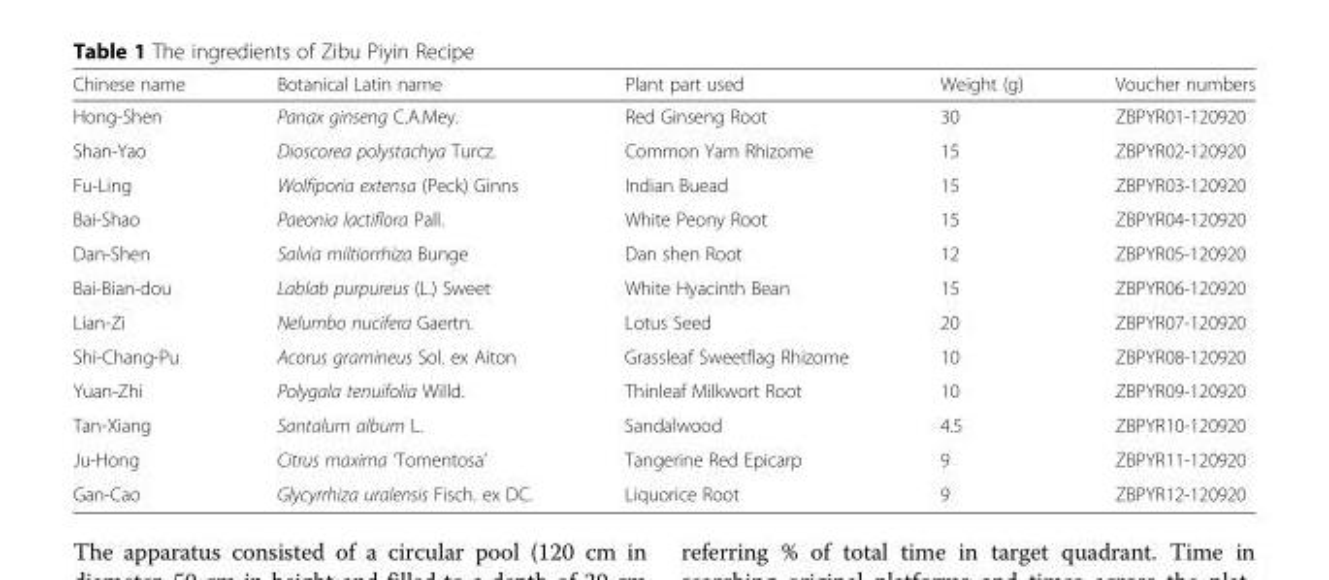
<table><thead><tr><td>Chinese name</td><td>Botanical Latin name</td><td>Plant part used</td><td>Weight (g)</td><td>Voucher numbers</td></tr></thead><tbody><tr><td>Hong-Shen</td><td>Panax ginseng C.A.Mey.</td><td>Red Ginseng Root</td><td>30</td><td>ZBPYR01-120920</td></tr><tr><td>Shan-Yao</td><td>Dioscorea polystachya Turcz.</td><td>Common Yam Rhizome</td><td>15</td><td>ZBPYR02-120920</td></tr><tr><td>Fu-Ling</td><td>Wolfiporia extensa (Peck) Ginns</td><td>Indian Buead</td><td>15</td><td>ZBPYR03-120920</td></tr><tr><td>Bai-Shao</td><td>Paeonia lactiflora Pall.</td><td>White Peony Root</td><td>15</td><td>ZBPYR04-120920</td></tr><tr><td>Dan-Shen</td><td>Salvia miltiorrhiza Bunge</td><td>Dan shen Root</td><td>12</td><td>ZBPYR05-120920</td></tr><tr><td>Bai-Bian-dou</td><td>Lablab purpureus (L.) Sweet</td><td>White Hyacinth Bean</td><td>15</td><td>ZBPYR06-120920</td></tr><tr><td>Lian-Zi</td><td>Nelumbo nucifera Gaertn.</td><td>Lotus Seed</td><td>20</td><td>ZBPYR07-120920</td></tr><tr><td>Shi-Chang-Pu</td><td>Acorus gramineus Sol. ex Aiton</td><td>Grassleaf Sweetflag Rhizome</td><td>10</td><td>ZBPYR08-120920</td></tr><tr><td>Yuan-Zhi</td><td>Polygala tenuifolia Willd.</td><td>Thinleaf Milkwort Root</td><td>10</td><td>ZBPYR09-120920</td></tr><tr><td>Tan-Xiang</td><td>Santalum album L.</td><td>Sandalwood</td><td>4.5</td><td>ZBPYR10-120920</td></tr><tr><td>Ju-Hong</td><td>Citrus maxima ‘Tomentosa’</td><td>Tangerine Red Epicarp</td><td>9</td><td>ZBPYR11-120920</td></tr><tr><td>Gan-Cao</td><td>Glycyrrhiza uralensis Fisch. ex DC.</td><td>Liquorice Root</td><td>9</td><td>ZBPYR12-120920</td></tr></tbody></table>